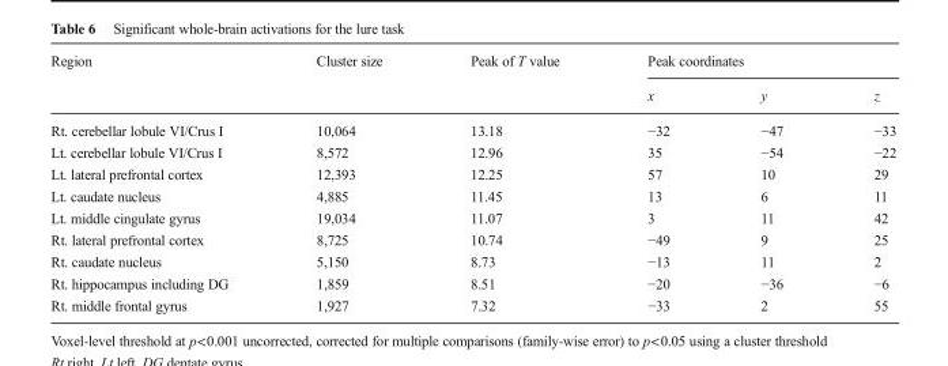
<table><thead><tr><td rowspan="2">Region</td><td rowspan="2">Cluster size</td><td rowspan="2">Peak of T value</td><td colspan="3">Peak coordinates</td></tr><tr><td>x</td><td>y</td><td>z</td></tr></thead><tbody><tr><td>Rt. cerebellar lobule VI/Crus I</td><td>10,064</td><td>13.18</td><td>−32</td><td>−47</td><td>−33</td></tr><tr><td>Lt. cerebellar lobule VI/Crus I</td><td>8,572</td><td>12.96</td><td>35</td><td>−54</td><td>−22</td></tr><tr><td>Lt. lateral prefrontal cortex</td><td>12,393</td><td>12.25</td><td>57</td><td>10</td><td>29</td></tr><tr><td>Lt. caudate nucleus</td><td>4,885</td><td>11.45</td><td>13</td><td>6</td><td>11</td></tr><tr><td>Lt. middle cingulate gyrus</td><td>19,034</td><td>11.07</td><td>3</td><td>11</td><td>42</td></tr><tr><td>Rt. lateral prefrontal cortex</td><td>8,725</td><td>10.74</td><td>−49</td><td>9</td><td>25</td></tr><tr><td>Rt. caudate nucleus</td><td>5,150</td><td>8.73</td><td>−13</td><td>11</td><td>2</td></tr><tr><td>Rt. hippocampus including DG</td><td>1,859</td><td>8.51</td><td>−20</td><td>−36</td><td>−6</td></tr><tr><td>Rt. middle frontal gyrus</td><td>1,927</td><td>7.32</td><td>−33</td><td>2</td><td>55</td></tr></tbody></table>